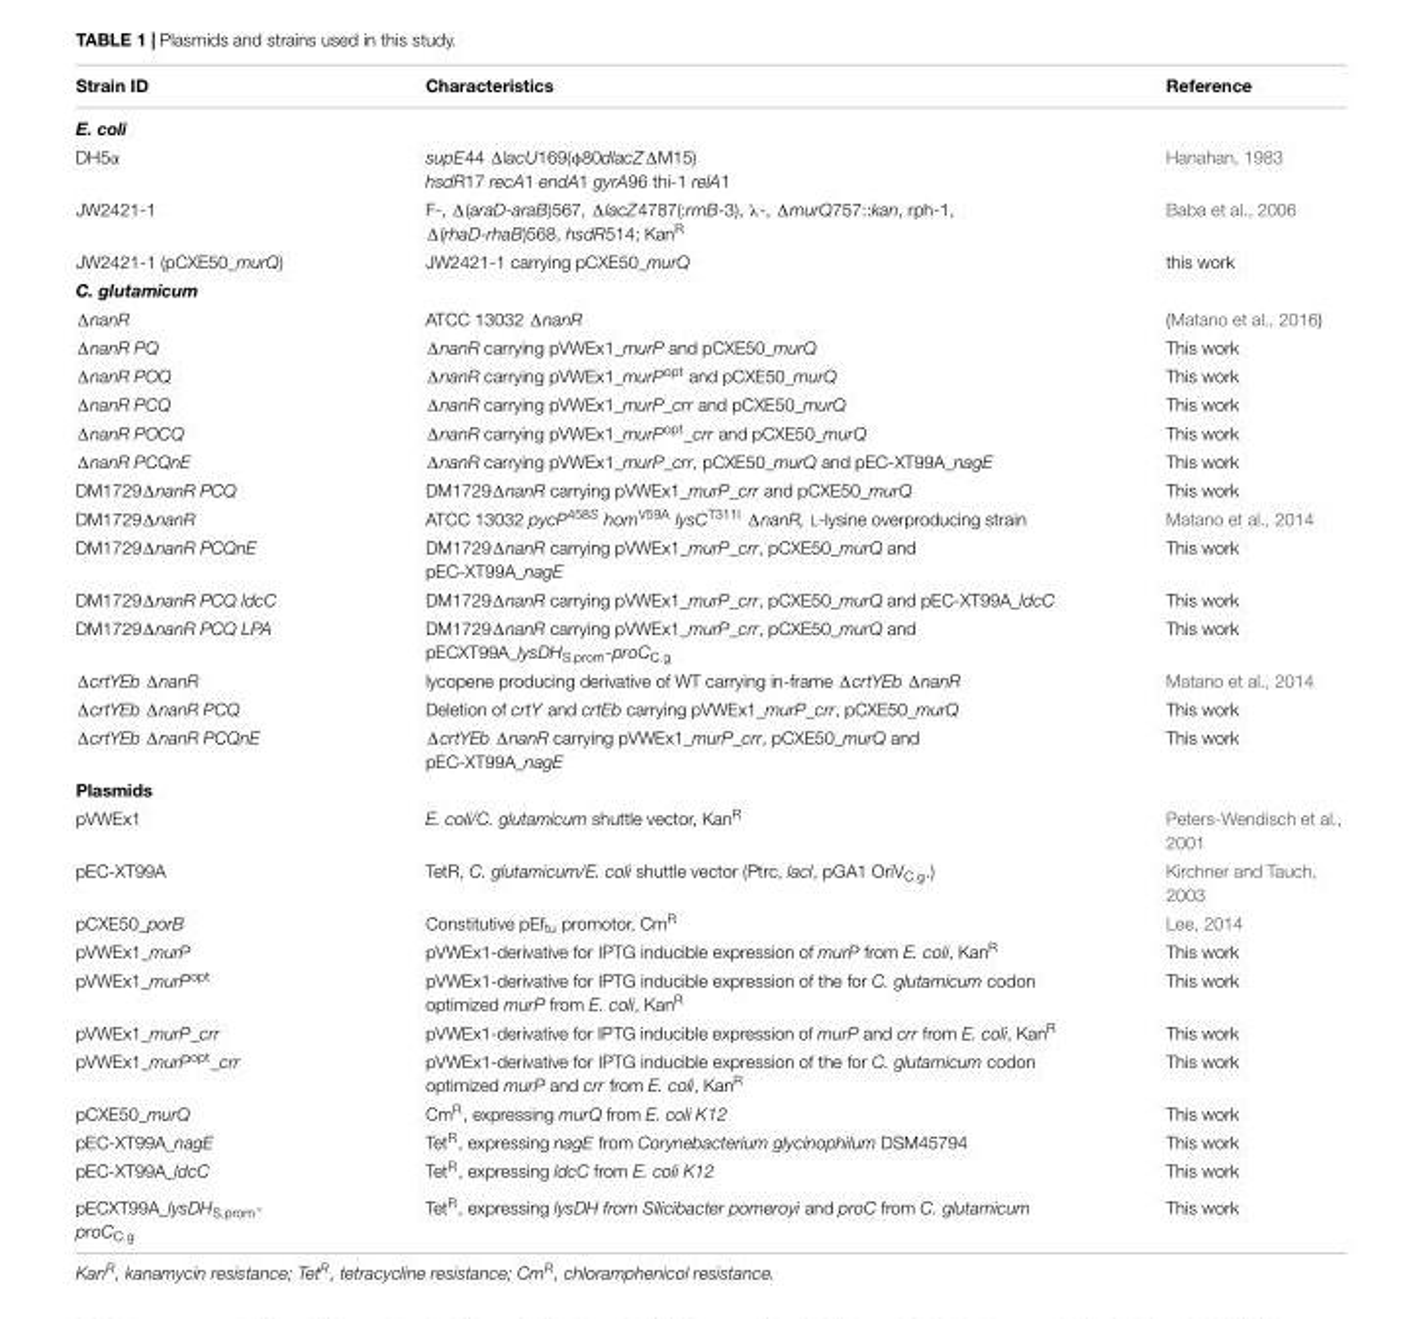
<table><thead><tr><td>Strain ID</td><td>Characteristics</td><td>Reference</td></tr></thead><tbody><tr><td colspan="3">E. coli</td></tr><tr><td>DH5α</td><td>supE44 ΔlacU169(φ80dlacZΔM15) hsdR17 recA1 endA1 gyrA96 thi-1 relA1</td><td>Hanahan, 1983</td></tr><tr><td>JW2421-1</td><td>F-, �(araD-araB)567, �lacZ4787(:rrnB-3), λ-, �murQ757::kan, rph-1, �(rhaD-rhaB)568, hsdR514; KanR</td><td>Baba et al., 2006</td></tr><tr><td>JW2421-1 (pCXE50_murQ)</td><td>JW2421-1 carrying pCXE50_murQ</td><td>this work</td></tr><tr><td colspan="3">C. glutamicum</td></tr><tr><td>ΔnanR</td><td>ATCC 13032 ΔnanR</td><td>(Matano et al., 2016)</td></tr><tr><td>ΔnanR PQ</td><td>ΔnanR carrying pVWEx1_murP and pCXE50_murQ</td><td>This work</td></tr><tr><td>ΔnanR POQ</td><td>ΔnanR carrying pVWEx1_murP<sup>opt</sup> and pCXE50_murQ</td><td>This work</td></tr><tr><td>ΔnanR PCQ</td><td>ΔnanR carrying pVWEx1_murP_crr and pCXE50_murQ</td><td>This work</td></tr><tr><td>ΔnanR POCQ</td><td>ΔnanR carrying pVWEx1_murP<sup>opt</sup>_crr and pCXE50_murQ</td><td>This work</td></tr><tr><td>ΔnanR PCQnE</td><td>ΔnanR carrying pVWEx1_murP_crr, pCXE50_murQ and pEC-XT99A_nagE</td><td>This work</td></tr><tr><td>DM1729ΔnanR PCQ</td><td>DM1729ΔnanR carrying pVWEx1_murP_crr and pCXE50_murQ</td><td>This work</td></tr><tr><td>DM1729ΔnanR</td><td>ATCC 13032 pycP<sup>458S</sup> hom<sup>V59A</sup> lysC<sup>T311I</sup> ΔnanR, L-lysine overproducing strain</td><td>Matano et al., 2014</td></tr><tr><td>DM1729ΔnanR PCQnE</td><td>DM1729ΔnanR carrying pVWEx1_murP_crr, pCXE50_murQ and pEC-XT99A_nagE</td><td>This work</td></tr><tr><td>DM1729ΔnanR PCQ ldcC</td><td>DM1729ΔnanR carrying pVWEx1_murP_crr, pCXE50_murQ and pEC-XT99A_ldcC</td><td>This work</td></tr><tr><td>DM1729ΔnanR PCQ LPA</td><td>DM1729ΔnanR carrying pVWEx1_murP_crr, pCXE50_murQ and pECXT99A_lysDH<sub>S.prom</sub>-proC<sub>C.g</sub></td><td>This work</td></tr><tr><td>ΔcrtYEb ΔnanR</td><td>lycopene producing derivative of WT carrying in-frame ΔcrtYEb ΔnanR</td><td>Matano et al., 2014</td></tr><tr><td>ΔcrtYEb ΔnanR PCQ</td><td>Deletion of crtY and crtEb carrying pVWEx1_murP_crr, pCXE50_murQ</td><td>This work</td></tr><tr><td>ΔcrtYEb ΔnanR PCQnE</td><td>ΔcrtYEb ΔnanR carrying pVWEx1_murP_crr, pCXE50_murQ and pEC-XT99A_nagE</td><td>This work</td></tr><tr><td colspan="3">Plasmids</td></tr><tr><td>pVWEx1</td><td>E. coli/C. glutamicum shuttle vector, Kan<sup>R</sup></td><td>Peters-Wendisch et al., 2001</td></tr><tr><td>pEC-XT99A</td><td>TetR, C. glutamicum/E. coli shuttle vector (Ptrc, lacI, pGA1 OriV<sub>C.g</sub>.)</td><td>Kirchner and Tauch, 2003</td></tr><tr><td>pCXE50_porB</td><td>Constitutive pEf<sub>tu</sub> promotor, Cm<sup>R</sup></td><td>Lee, 2014</td></tr><tr><td>pVWEx1_murP</td><td>pVWEx1-derivative for IPTG inducible expression of murP from E. coli, Kan<sup>R</sup></td><td>This work</td></tr><tr><td>pVWEx1_murP<sup>opt</sup></td><td>pVWEx1-derivative for IPTG inducible expression of the for C. glutamicum codon optimized murP from E. coli, Kan<sup>R</sup></td><td>This work</td></tr><tr><td>pVWEx1_murP_crr</td><td>pVWEx1-derivative for IPTG inducible expression of murP and crr from E. coli, Kan<sup>R</sup></td><td>This work</td></tr><tr><td>pVWEx1_murP<sup>opt</sup>_crr</td><td>pVWEx1-derivative for IPTG inducible expression of the for C. glutamicum codon optimized murP and crr from E. coli, Kan<sup>R</sup></td><td>This work</td></tr><tr><td>pCXE50_murQ</td><td>Cm<sup>R</sup>, expressing murQ from E. coli K12</td><td>This work</td></tr><tr><td>pEC-XT99A_nagE</td><td>Tet<sup>R</sup>, expressing nagE from Corynebacterium glycinophilum DSM45794</td><td>This work</td></tr><tr><td>pEC-XT99A_ldcC</td><td>Tet<sup>R</sup>, expressing ldcC from E. coli K12</td><td>This work</td></tr><tr><td>pECXT99A_lysDH<sub>S.prom</sub>- proC<sub>C.g</sub></td><td>Tet<sup>R</sup>, expressing lysDH from Silicibacter pomeroyi and proC from C. glutamicum</td><td>This work</td></tr></tbody></table>